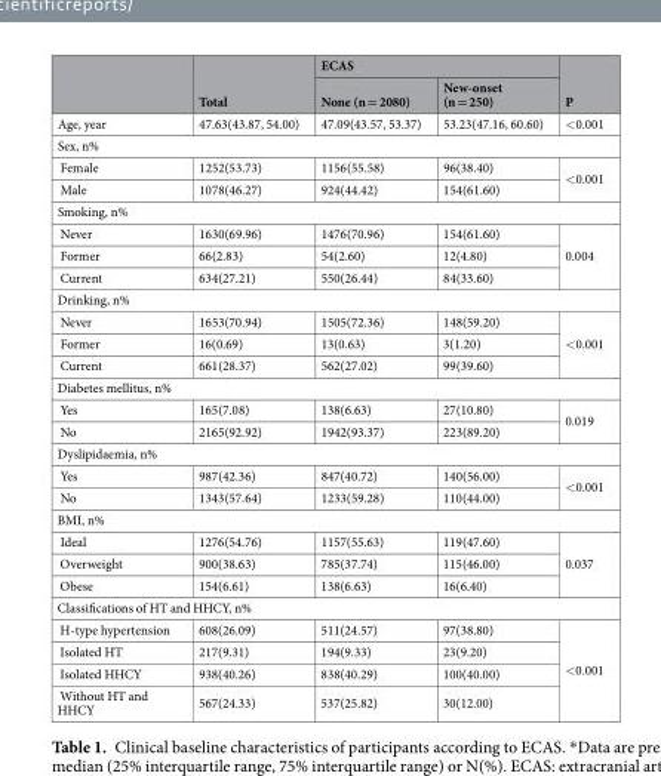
<table><thead><tr><td rowspan="2"></td><td rowspan="2">Total</td><td colspan="2">ECAS</td><td rowspan="2">P</td></tr><tr><td>None (n = 2080)</td><td>New-onset (n = 250)</td></tr></thead><tbody><tr><td>Age, year</td><td>47.63(43.87, 54.00)</td><td>47.09(43.57, 53.37)</td><td>53.23(47.16, 60.60)</td><td>&lt;0.001</td></tr><tr><td colspan="5">Sex, n%</td></tr><tr><td>Female</td><td>1252(53.73)</td><td>1156(55.58)</td><td>96(38.40)</td><td rowspan="2">&lt;0.001</td></tr><tr><td>Male</td><td>1078(46.27)</td><td>924(44.42)</td><td>154(61.60)</td></tr><tr><td colspan="5">Smoking, n%</td></tr><tr><td>Never</td><td>1630(69.96)</td><td>1476(70.96)</td><td>154(61.60)</td><td rowspan="3">0.004</td></tr><tr><td>Former</td><td>66(2.83)</td><td>54(2.60)</td><td>12(4.80)</td></tr><tr><td>Current</td><td>634(27.21)</td><td>550(26.44)</td><td>84(33.60)</td></tr><tr><td colspan="5">Drinking, n%</td></tr><tr><td>Never</td><td>1653(70.94)</td><td>1505(72.36)</td><td>148(59.20)</td><td rowspan="3">&lt;0.001</td></tr><tr><td>Former</td><td>16(0.69)</td><td>13(0.63)</td><td>3(1.20)</td></tr><tr><td>Current</td><td>661(28.37)</td><td>562(27.02)</td><td>99(39.60)</td></tr><tr><td colspan="5">Diabetes mellitus, n%</td></tr><tr><td>Yes</td><td>165(7.08)</td><td>138(6.63)</td><td>27(10.80)</td><td rowspan="2">0.019</td></tr><tr><td>No</td><td>2165(92.92)</td><td>1942(93.37)</td><td>223(89.20)</td></tr><tr><td colspan="5">Dyslipidaemia, n%</td></tr><tr><td>Yes</td><td>987(42.36)</td><td>847(40.72)</td><td>140(56.00)</td><td rowspan="2">&lt;0.001</td></tr><tr><td>No</td><td>1343(57.64)</td><td>1233(59.28)</td><td>110(44.00)</td></tr><tr><td colspan="5">BMI, n%</td></tr><tr><td>Ideal</td><td>1276(54.76)</td><td>1157(55.63)</td><td>119(47.60)</td><td rowspan="3">0.037</td></tr><tr><td>Overweight</td><td>900(38.63)</td><td>785(37.74)</td><td>115(46.00)</td></tr><tr><td>Obese</td><td>154(6.61)</td><td>138(6.63)</td><td>16(6.40)</td></tr><tr><td colspan="5">Classifications of HT and HHCY, n%</td></tr><tr><td>H-type hypertension</td><td>608(26.09)</td><td>511(24.57)</td><td>97(38.80)</td><td rowspan="4">&lt;0.001</td></tr><tr><td>Isolated HT</td><td>217(9.31)</td><td>194(9.33)</td><td>23(9.20)</td></tr><tr><td>Isolated HHCY</td><td>938(40.26)</td><td>838(40.29)</td><td>100(40.00)</td></tr><tr><td>Without HT and HHCY</td><td>567(24.33)</td><td>537(25.82)</td><td>30(12.00)</td></tr></tbody></table>